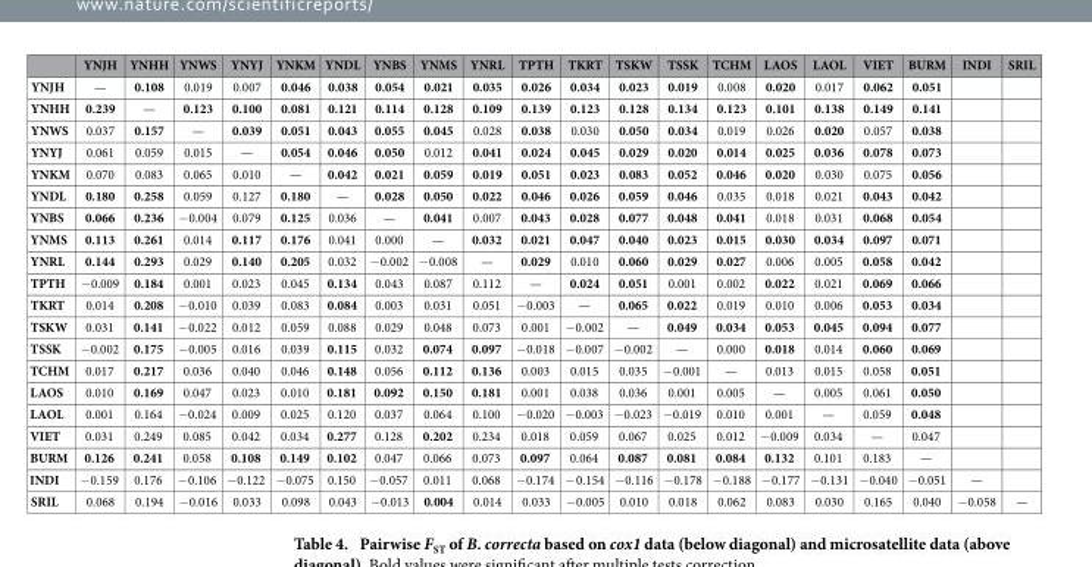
<table><thead><tr><td></td><td>YNJH</td><td>YNHH</td><td>YNWS</td><td>YNYJ</td><td>YNKM</td><td>YNDL</td><td>YNBS</td><td>YNMS</td><td>YNRL</td><td>TPTH</td><td>TKRT</td><td>TSKW</td><td>TSSK</td><td>TCHM</td><td>LAOS</td><td>LAOL</td><td>VIET</td><td>BURM</td><td>INDI</td><td>SRIL</td></tr></thead><tbody><tr><td>YNJH</td><td>—</td><td>0.108</td><td>0.019</td><td>0.007</td><td>0.046</td><td>0.038</td><td>0.054</td><td>0.021</td><td>0.035</td><td>0.026</td><td>0.034</td><td>0.023</td><td>0.019</td><td>0.008</td><td>0.020</td><td>0.017</td><td>0.062</td><td>0.051</td><td></td><td></td></tr><tr><td>YNHH</td><td>0.239</td><td>—</td><td>0.123</td><td>0.100</td><td>0.081</td><td>0.121</td><td>0.114</td><td>0.128</td><td>0.109</td><td>0.139</td><td>0.123</td><td>0.128</td><td>0.134</td><td>0.123</td><td>0.101</td><td>0.138</td><td>0.149</td><td>0.141</td><td></td><td></td></tr><tr><td>YNWS</td><td>0.037</td><td>0.157</td><td>—</td><td>0.039</td><td>0.051</td><td>0.043</td><td>0.055</td><td>0.045</td><td>0.028</td><td>0.038</td><td>0.030</td><td>0.050</td><td>0.034</td><td>0.019</td><td>0.026</td><td>0.020</td><td>0.057</td><td>0.038</td><td></td><td></td></tr><tr><td>YNYJ</td><td>0.061</td><td>0.059</td><td>0.015</td><td>—</td><td>0.054</td><td>0.046</td><td>0.050</td><td>0.012</td><td>0.041</td><td>0.024</td><td>0.045</td><td>0.029</td><td>0.020</td><td>0.014</td><td>0.025</td><td>0.036</td><td>0.078</td><td>0.073</td><td></td><td></td></tr><tr><td>YNKM</td><td>0.070</td><td>0.083</td><td>0.065</td><td>0.010</td><td>—</td><td>0.042</td><td>0.021</td><td>0.059</td><td>0.019</td><td>0.051</td><td>0.023</td><td>0.083</td><td>0.052</td><td>0.046</td><td>0.020</td><td>0.030</td><td>0.075</td><td>0.056</td><td></td><td></td></tr><tr><td>YNDL</td><td>0.180</td><td>0.258</td><td>0.059</td><td>0.127</td><td>0.180</td><td>—</td><td>0.028</td><td>0.050</td><td>0.022</td><td>0.046</td><td>0.026</td><td>0.059</td><td>0.046</td><td>0.035</td><td>0.018</td><td>0.021</td><td>0.043</td><td>0.042</td><td></td><td></td></tr><tr><td>YNBS</td><td>0.066</td><td>0.236</td><td>− 0.004</td><td>0.079</td><td>0.125</td><td>0.036</td><td>—</td><td>0.041</td><td>0.007</td><td>0.043</td><td>0.028</td><td>0.077</td><td>0.048</td><td>0.041</td><td>0.018</td><td>0.031</td><td>0.068</td><td>0.054</td><td></td><td></td></tr><tr><td>YNMS</td><td>0.113</td><td>0.261</td><td>0.014</td><td>0.117</td><td>0.176</td><td>0.041</td><td>0.000</td><td>—</td><td>0.032</td><td>0.021</td><td>0.047</td><td>0.040</td><td>0.023</td><td>0.015</td><td>0.030</td><td>0.034</td><td>0.097</td><td>0.071</td><td></td><td></td></tr><tr><td>YNRL</td><td>0.144</td><td>0.293</td><td>0.029</td><td>0.140</td><td>0.205</td><td>0.032</td><td>− 0.002</td><td>− 0.008</td><td>—</td><td>0.029</td><td>0.010</td><td>0.060</td><td>0.029</td><td>0.027</td><td>0.006</td><td>0.005</td><td>0.058</td><td>0.042</td><td></td><td></td></tr><tr><td>TPTH</td><td>− 0.009</td><td>0.184</td><td>0.001</td><td>0.023</td><td>0.045</td><td>0.134</td><td>0.043</td><td>0.087</td><td>0.112</td><td>—</td><td>0.024</td><td>0.051</td><td>0.001</td><td>0.002</td><td>0.022</td><td>0.021</td><td>0.069</td><td>0.066</td><td></td><td></td></tr><tr><td>TKRT</td><td>0.014</td><td>0.208</td><td>− 0.010</td><td>0.039</td><td>0.083</td><td>0.084</td><td>0.003</td><td>0.031</td><td>0.051</td><td>− 0.003</td><td>—</td><td>0.065</td><td>0.022</td><td>0.019</td><td>0.010</td><td>0.006</td><td>0.053</td><td>0.034</td><td></td><td></td></tr><tr><td>TSKW</td><td>0.031</td><td>0.141</td><td>− 0.022</td><td>0.012</td><td>0.059</td><td>0.088</td><td>0.029</td><td>0.048</td><td>0.073</td><td>0.001</td><td>− 0.002</td><td>—</td><td>0.049</td><td>0.034</td><td>0.053</td><td>0.045</td><td>0.094</td><td>0.077</td><td></td><td></td></tr><tr><td>TSSK</td><td>− 0.002</td><td>0.175</td><td>− 0.005</td><td>0.016</td><td>0.039</td><td>0.115</td><td>0.032</td><td>0.074</td><td>0.097</td><td>− 0.018</td><td>− 0.007</td><td>− 0.002</td><td>—</td><td>0.000</td><td>0.018</td><td>0.014</td><td>0.060</td><td>0.069</td><td></td><td></td></tr><tr><td>TCHM</td><td>0.017</td><td>0.217</td><td>0.036</td><td>0.040</td><td>0.046</td><td>0.148</td><td>0.056</td><td>0.112</td><td>0.136</td><td>0.003</td><td>0.015</td><td>0.035</td><td>− 0.001</td><td>—</td><td>0.013</td><td>0.015</td><td>0.058</td><td>0.051</td><td></td><td></td></tr><tr><td>LAOS</td><td>0.010</td><td>0.169</td><td>0.047</td><td>0.023</td><td>0.010</td><td>0.181</td><td>0.092</td><td>0.150</td><td>0.181</td><td>0.001</td><td>0.038</td><td>0.036</td><td>0.001</td><td>0.005</td><td>—</td><td>0.005</td><td>0.061</td><td>0.050</td><td></td><td></td></tr><tr><td>LAOL</td><td>0.001</td><td>0.164</td><td>− 0.024</td><td>0.009</td><td>0.025</td><td>0.120</td><td>0.037</td><td>0.064</td><td>0.100</td><td>− 0.020</td><td>− 0.003</td><td>− 0.023</td><td>− 0.019</td><td>0.010</td><td>0.001</td><td>—</td><td>0.059</td><td>0.048</td><td></td><td></td></tr><tr><td>VIET</td><td>0.031</td><td>0.249</td><td>0.085</td><td>0.042</td><td>0.034</td><td>0.277</td><td>0.128</td><td>0.202</td><td>0.234</td><td>0.018</td><td>0.059</td><td>0.067</td><td>0.025</td><td>0.012</td><td>− 0.009</td><td>0.034</td><td>—</td><td>0.047</td><td></td><td></td></tr><tr><td>BURM</td><td>0.126</td><td>0.241</td><td>0.058</td><td>0.108</td><td>0.149</td><td>0.102</td><td>0.047</td><td>0.066</td><td>0.073</td><td>0.097</td><td>0.064</td><td>0.087</td><td>0.081</td><td>0.084</td><td>0.132</td><td>0.101</td><td>0.183</td><td>—</td><td></td><td></td></tr><tr><td>INDI</td><td>− 0.159</td><td>0.176</td><td>− 0.106</td><td>− 0.122</td><td>− 0.075</td><td>0.150</td><td>− 0.057</td><td>0.011</td><td>0.068</td><td>− 0.174</td><td>− 0.154</td><td>− 0.116</td><td>− 0.178</td><td>− 0.188</td><td>− 0.177</td><td>− 0.131</td><td>− 0.040</td><td>− 0.051</td><td>—</td><td></td></tr><tr><td>SRIL</td><td>0.068</td><td>0.194</td><td>− 0.016</td><td>0.033</td><td>0.098</td><td>0.043</td><td>− 0.013</td><td>0.004</td><td>0.014</td><td>0.033</td><td>− 0.005</td><td>0.010</td><td>0.018</td><td>0.062</td><td>0.083</td><td>0.030</td><td>0.165</td><td>0.040</td><td>− 0.058</td><td>—</td></tr></tbody></table>